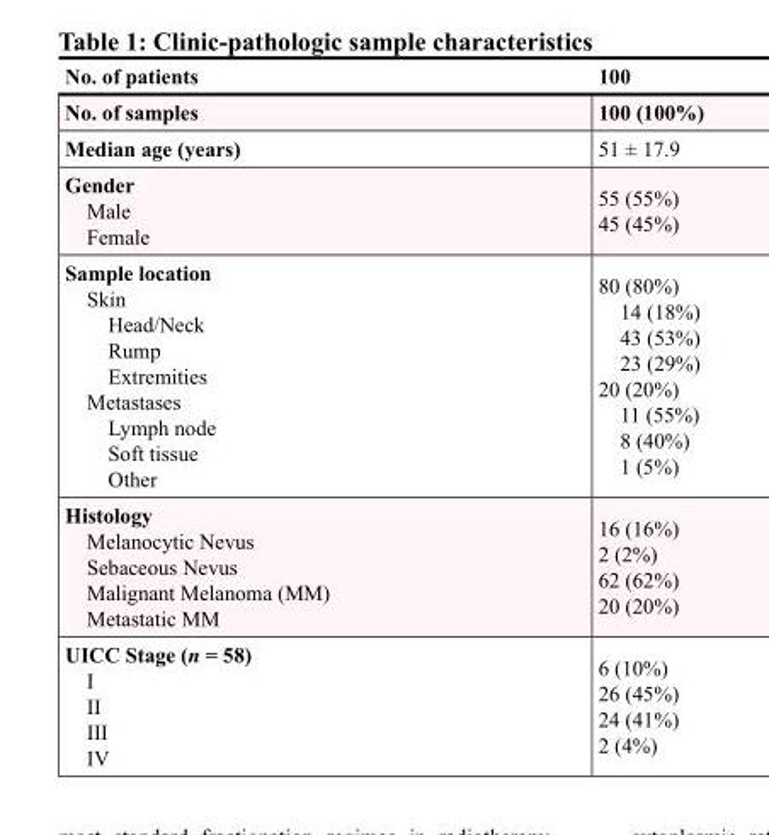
<table><thead><tr><td>No. of patients</td><td>100</td></tr></thead><tbody><tr><td>No. of samples</td><td>100 (100%)</td></tr><tr><td>Median age (years)</td><td>51 ± 17.9</td></tr><tr><td>Gender Male Female</td><td>55 (55%) 45 (45%)</td></tr><tr><td>Sample location Skin Head/Neck Rump Extremities Metastases Lymph node Soft tissue Other</td><td>80 (80%) 14 (18%) 43 (53%) 23 (29%) 20 (20%) 11 (55%) 8 (40%) 1 (5%)</td></tr><tr><td>Histology Melanocytic Nevus Sebaceous Nevus Malignant Melanoma (MM) Metastatic MM</td><td>16 (16%) 2 (2%) 62 (62%) 20 (20%)</td></tr><tr><td>UICC Stage (n = 58) I II III IV</td><td>6 (10%) 26 (45%) 24 (41%) 2 (4%)</td></tr></tbody></table>